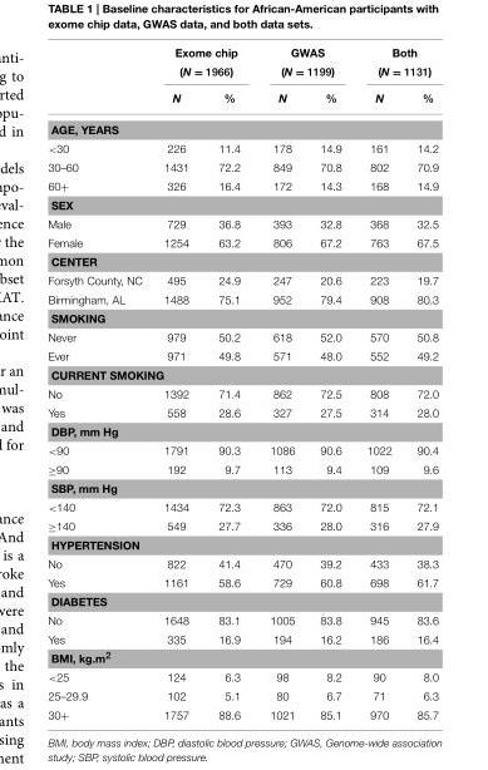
<table><thead><tr><td rowspan="2"></td><td colspan="2">Exome chip (N = 1966)</td><td colspan="2">GWAS (N = 1199)</td><td colspan="2">Both (N = 1131)</td></tr><tr><td>N</td><td>%</td><td>N</td><td>%</td><td>N</td><td>%</td></tr></thead><tbody><tr><td colspan="7">AGE, YEARS</td></tr><tr><td>&lt;30</td><td>226</td><td>11.4</td><td>178</td><td>14.9</td><td>161</td><td>14.2</td></tr><tr><td>30–60</td><td>1431</td><td>72.2</td><td>849</td><td>70.8</td><td>802</td><td>70.9</td></tr><tr><td>60+</td><td>326</td><td>16.4</td><td>172</td><td>14.3</td><td>168</td><td>14.9</td></tr><tr><td colspan="7">SEX</td></tr><tr><td>Male</td><td>729</td><td>36.8</td><td>393</td><td>32.8</td><td>368</td><td>32.5</td></tr><tr><td>Female</td><td>1254</td><td>63.2</td><td>806</td><td>67.2</td><td>763</td><td>67.5</td></tr><tr><td colspan="7">CENTER</td></tr><tr><td>Forsyth County, NC</td><td>495</td><td>24.9</td><td>247</td><td>20.6</td><td>223</td><td>19.7</td></tr><tr><td>Birmingham, AL</td><td>1488</td><td>75.1</td><td>952</td><td>79.4</td><td>908</td><td>80.3</td></tr><tr><td colspan="7">SMOKING</td></tr><tr><td>Never</td><td>979</td><td>50.2</td><td>618</td><td>52.0</td><td>570</td><td>50.8</td></tr><tr><td>Ever</td><td>971</td><td>49.8</td><td>571</td><td>48.0</td><td>552</td><td>49.2</td></tr><tr><td colspan="7">CURRENT SMOKING</td></tr><tr><td>No</td><td>1392</td><td>71.4</td><td>862</td><td>72.5</td><td>808</td><td>72.0</td></tr><tr><td>Yes</td><td>558</td><td>28.6</td><td>327</td><td>27.5</td><td>314</td><td>28.0</td></tr><tr><td colspan="7">DBP, mm Hg</td></tr><tr><td>&lt;90</td><td>1791</td><td>90.3</td><td>1086</td><td>90.6</td><td>1022</td><td>90.4</td></tr><tr><td>≥90</td><td>192</td><td>9.7</td><td>113</td><td>9.4</td><td>109</td><td>9.6</td></tr><tr><td colspan="7">SBP, mm Hg</td></tr><tr><td>&lt;140</td><td>1434</td><td>72.3</td><td>863</td><td>72.0</td><td>815</td><td>72.1</td></tr><tr><td>≥140</td><td>549</td><td>27.7</td><td>336</td><td>28.0</td><td>316</td><td>27.9</td></tr><tr><td colspan="7">HYPERTENSION</td></tr><tr><td>No</td><td>822</td><td>41.4</td><td>470</td><td>39.2</td><td>433</td><td>38.3</td></tr><tr><td>Yes</td><td>1161</td><td>58.6</td><td>729</td><td>60.8</td><td>698</td><td>61.7</td></tr><tr><td colspan="7">DIABETES</td></tr><tr><td>No</td><td>1648</td><td>83.1</td><td>1005</td><td>83.8</td><td>945</td><td>83.6</td></tr><tr><td>Yes</td><td>335</td><td>16.9</td><td>194</td><td>16.2</td><td>186</td><td>16.4</td></tr><tr><td colspan="7">BMI, kg.m<sup>2</sup></td></tr><tr><td>&lt;25</td><td>124</td><td>6.3</td><td>98</td><td>8.2</td><td>90</td><td>8.0</td></tr><tr><td>25–29.9</td><td>102</td><td>5.1</td><td>80</td><td>6.7</td><td>71</td><td>6.3</td></tr><tr><td>30+</td><td>1757</td><td>88.6</td><td>1021</td><td>85.1</td><td>970</td><td>85.7</td></tr></tbody></table>